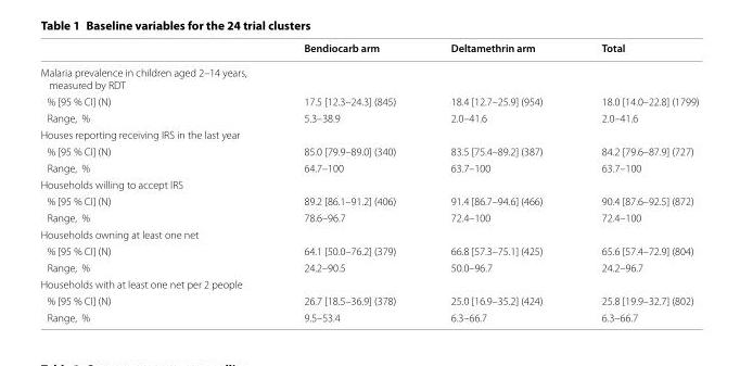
<table><thead><tr><td></td><td>Bendiocarb arm</td><td>Deltamethrin arm</td><td>Total</td></tr></thead><tbody><tr><td colspan="4">Malaria prevalence in children aged 2–14 years, measured by RDT</td></tr><tr><td>% [95 % CI] (N)</td><td>17.5 [12.3–24.3] (845)</td><td>18.4 [12.7–25.9] (954)</td><td>18.0 [14.0–22.8] (1799)</td></tr><tr><td>Range, %</td><td>5.3–38.9</td><td>2.0–41.6</td><td>2.0–41.6</td></tr><tr><td colspan="4">Houses reporting receiving IRS in the last year</td></tr><tr><td>% [95 % CI] (N)</td><td>85.0 [79.9–89.0] (340)</td><td>83.5 [75.4–89.2] (387)</td><td>84.2 [79.6–87.9] (727)</td></tr><tr><td>Range, %</td><td>64.7–100</td><td>63.7–100</td><td>63.7–100</td></tr><tr><td colspan="4">Households willing to accept IRS</td></tr><tr><td>% [95 % CI] (N)</td><td>89.2 [86.1–91.2] (406)</td><td>91.4 [86.7–94.6] (466)</td><td>90.4 [87.6–92.5] (872)</td></tr><tr><td>Range, %</td><td>78.6–96.7</td><td>72.4–100</td><td>72.4–100</td></tr><tr><td colspan="4">Households owning at least one net</td></tr><tr><td>% [95 % CI] (N)</td><td>64.1 [50.0–76.2] (379)</td><td>66.8 [57.3–75.1] (425)</td><td>65.6 [57.4–72.9] (804)</td></tr><tr><td>Range, %</td><td>24.2–90.5</td><td>50.0–96.7</td><td>24.2–96.7</td></tr><tr><td colspan="4">Households with at least one net per 2 people</td></tr><tr><td>% [95 % CI] (N)</td><td>26.7 [18.5–36.9] (378)</td><td>25.0 [16.9–35.2] (424)</td><td>25.8 [19.9–32.7] (802)</td></tr><tr><td>Range, %</td><td>9.5–53.4</td><td>6.3–66.7</td><td>6.3–66.7</td></tr></tbody></table>